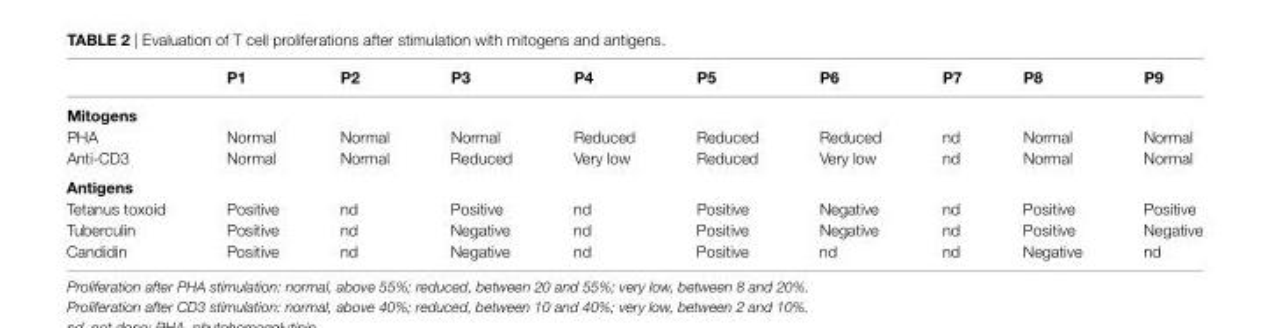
<table><thead><tr><td></td><td>p1</td><td>p2</td><td>p3</td><td>p4</td><td>p5</td><td>p6</td><td>p7</td><td>p8</td><td>p9</td></tr></thead><tbody><tr><td colspan="10">Mitogens</td></tr><tr><td>PHA</td><td>Normal</td><td>Normal</td><td>Normal</td><td>Reduced</td><td>Reduced</td><td>Reduced</td><td>nd</td><td>Normal</td><td>Normal</td></tr><tr><td>Anti-CD3</td><td>Normal</td><td>Normal</td><td>Reduced</td><td>Very low</td><td>Reduced</td><td>Very low</td><td>nd</td><td>Normal</td><td>Normal</td></tr><tr><td colspan="10">antigens</td></tr><tr><td>Tetanus toxoid</td><td>Positive</td><td>nd</td><td>Positive</td><td>nd</td><td>Positive</td><td>Negative</td><td>nd</td><td>Positive</td><td>Positive</td></tr><tr><td>Tuberculin</td><td>Positive</td><td>nd</td><td>Negative</td><td>nd</td><td>Positive</td><td>Negative</td><td>nd</td><td>Positive</td><td>Negative</td></tr><tr><td>Candidin</td><td>Positive</td><td>nd</td><td>Negative</td><td>nd</td><td>Positive</td><td>nd</td><td>nd</td><td>Negative</td><td>nd</td></tr></tbody></table>